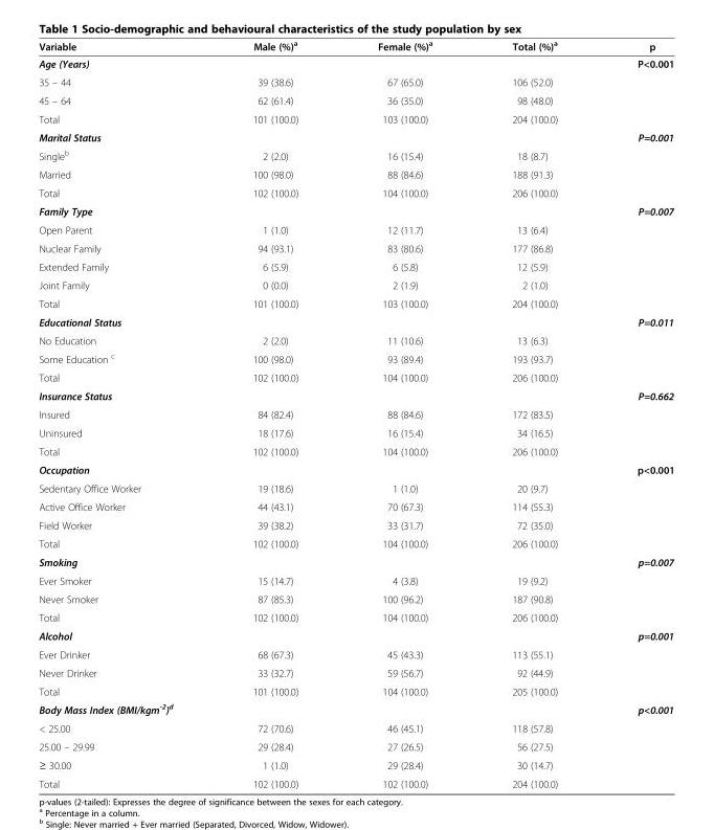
<table><thead><tr><td>Variable</td><td>Male (%)<sup>a</sup></td><td>Female (%)<sup>a</sup></td><td>Total (%)<sup>a</sup></td><td>p</td></tr></thead><tbody><tr><td>Age (Years)</td><td></td><td></td><td></td><td>P&lt;0.001</td></tr><tr><td>35 – 44</td><td>39 (38.6)</td><td>67 (65.0)</td><td>106 (52.0)</td><td></td></tr><tr><td>45 – 64</td><td>62 (61.4)</td><td>36 (35.0)</td><td>98 (48.0)</td><td></td></tr><tr><td>Total</td><td>101 (100.0)</td><td>103 (100.0)</td><td>204 (100.0)</td><td></td></tr><tr><td>Marital Status</td><td></td><td></td><td></td><td>P=0.001</td></tr><tr><td>Single<sup>b</sup></td><td>2 (2.0)</td><td>16 (15.4)</td><td>18 (8.7)</td><td></td></tr><tr><td>Married</td><td>100 (98.0)</td><td>88 (84.6)</td><td>188 (91.3)</td><td></td></tr><tr><td>Total</td><td>102 (100.0)</td><td>104 (100.0)</td><td>206 (100.0)</td><td></td></tr><tr><td>Family Type</td><td></td><td></td><td></td><td>P=0.007</td></tr><tr><td>Open Parent</td><td>1 (1.0)</td><td>12 (11.7)</td><td>13 (6.4)</td><td></td></tr><tr><td>Nuclear Family</td><td>94 (93.1)</td><td>83 (80.6)</td><td>177 (86.8)</td><td></td></tr><tr><td>Extended Family</td><td>6 (5.9)</td><td>6 (5.8)</td><td>12 (5.9)</td><td></td></tr><tr><td>Joint Family</td><td>0 (0.0)</td><td>2 (1.9)</td><td>2 (1.0)</td><td></td></tr><tr><td>Total</td><td>101 (100.0)</td><td>103 (100.0)</td><td>204 (100.0)</td><td></td></tr><tr><td>Educational Status</td><td></td><td></td><td></td><td>P=0.011</td></tr><tr><td>No Education</td><td>2 (2.0)</td><td>11 (10.6)</td><td>13 (6.3)</td><td></td></tr><tr><td>Some Education <sup>c</sup></td><td>100 (98.0)</td><td>93 (89.4)</td><td>193 (93.7)</td><td></td></tr><tr><td>Total</td><td>102 (100.0)</td><td>104 (100.0)</td><td>206 (100.0)</td><td></td></tr><tr><td>Insurance Status</td><td></td><td></td><td></td><td>P=0.662</td></tr><tr><td>Insured</td><td>84 (82.4)</td><td>88 (84.6)</td><td>172 (83.5)</td><td></td></tr><tr><td>Uninsured</td><td>18 (17.6)</td><td>16 (15.4)</td><td>34 (16.5)</td><td></td></tr><tr><td>Total</td><td>102 (100.0)</td><td>104 (100.0)</td><td>206 (100.0)</td><td></td></tr><tr><td>Occupation</td><td></td><td></td><td></td><td>p&lt;0.001</td></tr><tr><td>Sedentary Office Worker</td><td>19 (18.6)</td><td>1 (1.0)</td><td>20 (9.7)</td><td></td></tr><tr><td>Active Office Worker</td><td>44 (43.1)</td><td>70 (67.3)</td><td>114 (55.3)</td><td></td></tr><tr><td>Field Worker</td><td>39 (38.2)</td><td>33 (31.7)</td><td>72 (35.0)</td><td></td></tr><tr><td>Total</td><td>102 (100.0)</td><td>104 (100.0)</td><td>206 (100.0)</td><td></td></tr><tr><td>Smoking</td><td></td><td></td><td></td><td>p=0.007</td></tr><tr><td>Ever Smoker</td><td>15 (14.7)</td><td>4 (3.8)</td><td>19 (9.2)</td><td></td></tr><tr><td>Never Smoker</td><td>87 (85.3)</td><td>100 (96.2)</td><td>187 (90.8)</td><td></td></tr><tr><td>Total</td><td>102 (100.0)</td><td>104 (100.0)</td><td>206 (100.0)</td><td></td></tr><tr><td>Alcohol</td><td></td><td></td><td></td><td>p=0.001</td></tr><tr><td>Ever Drinker</td><td>68 (67.3)</td><td>45 (43.3)</td><td>113 (55.1)</td><td></td></tr><tr><td>Never Drinker</td><td>33 (32.7)</td><td>59 (56.7)</td><td>92 (44.9)</td><td></td></tr><tr><td>Total</td><td>101 (100.0)</td><td>104 (100.0)</td><td>205 (100.0)</td><td></td></tr><tr><td>Body Mass Index (BMI/kgm<sup>-2</sup>)<sup>d</sup></td><td></td><td></td><td></td><td>p&lt;0.001</td></tr><tr><td>&lt; 25.00</td><td>72 (70.6)</td><td>46 (45.1)</td><td>118 (57.8)</td><td></td></tr><tr><td>25.00 – 29.99</td><td>29 (28.4)</td><td>27 (26.5)</td><td>56 (27.5)</td><td></td></tr><tr><td>≥ 30.00</td><td>1 (1.0)</td><td>29 (28.4)</td><td>30 (14.7)</td><td></td></tr><tr><td>Total</td><td>102 (100.0)</td><td>102 (100.0)</td><td>204 (100.0)</td><td></td></tr></tbody></table>